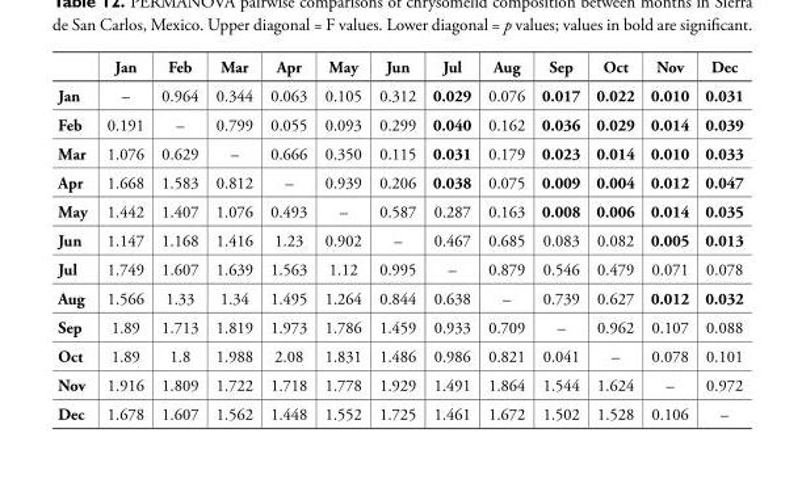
<table><thead><tr><td></td><td>Jan</td><td>Feb</td><td>Mar</td><td>Apr</td><td>May</td><td>Jun</td><td>Jul</td><td>Aug</td><td>Sep</td><td>Oct</td><td>Nov</td><td>Dec</td></tr></thead><tbody><tr><td>Jan</td><td>–</td><td>0.964</td><td>0.344</td><td>0.063</td><td>0.105</td><td>0.312</td><td>0.029</td><td>0.076</td><td>0.017</td><td>0.022</td><td>0.010</td><td>0.031</td></tr><tr><td>Feb</td><td>0.191</td><td>–</td><td>0.799</td><td>0.055</td><td>0.093</td><td>0.299</td><td>0.040</td><td>0.162</td><td>0.036</td><td>0.029</td><td>0.014</td><td>0.039</td></tr><tr><td>Mar</td><td>1.076</td><td>0.629</td><td>–</td><td>0.666</td><td>0.350</td><td>0.115</td><td>0.031</td><td>0.179</td><td>0.023</td><td>0.014</td><td>0.010</td><td>0.033</td></tr><tr><td>Apr</td><td>1.668</td><td>1.583</td><td>0.812</td><td>–</td><td>0.939</td><td>0.206</td><td>0.038</td><td>0.075</td><td>0.009</td><td>0.004</td><td>0.012</td><td>0.047</td></tr><tr><td>May</td><td>1.442</td><td>1.407</td><td>1.076</td><td>0.493</td><td>–</td><td>0.587</td><td>0.287</td><td>0.163</td><td>0.008</td><td>0.006</td><td>0.014</td><td>0.035</td></tr><tr><td>Jun</td><td>1.147</td><td>1.168</td><td>1.416</td><td>1.23</td><td>0.902</td><td>–</td><td>0.467</td><td>0.685</td><td>0.083</td><td>0.082</td><td>0.005</td><td>0.013</td></tr><tr><td>Jul</td><td>1.749</td><td>1.607</td><td>1.639</td><td>1.563</td><td>1.12</td><td>0.995</td><td>–</td><td>0.879</td><td>0.546</td><td>0.479</td><td>0.071</td><td>0.078</td></tr><tr><td>Aug</td><td>1.566</td><td>1.33</td><td>1.34</td><td>1.495</td><td>1.264</td><td>0.844</td><td>0.638</td><td>–</td><td>0.739</td><td>0.627</td><td>0.012</td><td>0.032</td></tr><tr><td>Sep</td><td>1.89</td><td>1.713</td><td>1.819</td><td>1.973</td><td>1.786</td><td>1.459</td><td>0.933</td><td>0.709</td><td>–</td><td>0.962</td><td>0.107</td><td>0.088</td></tr><tr><td>Oct</td><td>1.89</td><td>1.8</td><td>1.988</td><td>2.08</td><td>1.831</td><td>1.486</td><td>0.986</td><td>0.821</td><td>0.041</td><td>–</td><td>0.078</td><td>0.101</td></tr><tr><td>Nov</td><td>1.916</td><td>1.809</td><td>1.722</td><td>1.718</td><td>1.778</td><td>1.929</td><td>1.491</td><td>1.864</td><td>1.544</td><td>1.624</td><td>–</td><td>0.972</td></tr><tr><td>Dec</td><td>1.678</td><td>1.607</td><td>1.562</td><td>1.448</td><td>1.552</td><td>1.725</td><td>1.461</td><td>1.672</td><td>1.502</td><td>1.528</td><td>0.106</td><td>–</td></tr></tbody></table>